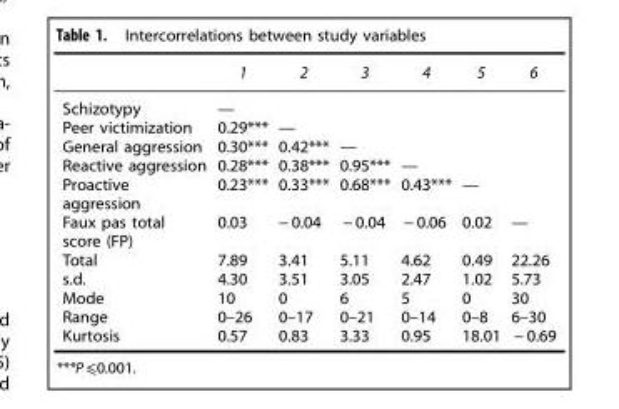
<table><thead><tr><td></td><td>1</td><td>2</td><td>3</td><td>4</td><td>5</td><td>6</td></tr></thead><tbody><tr><td>Schizotypy</td><td>—</td><td></td><td></td><td></td><td></td><td></td></tr><tr><td>Peer victimization</td><td>0.29***</td><td>—</td><td></td><td></td><td></td><td></td></tr><tr><td>General aggression</td><td>0.30***</td><td>0.42***</td><td>—</td><td></td><td></td><td></td></tr><tr><td>Reactive aggression</td><td>0.28***</td><td>0.38***</td><td>0.95***</td><td>—</td><td></td><td></td></tr><tr><td>Proactive aggression</td><td>0.23***</td><td>0.33***</td><td>0.68***</td><td>0.43***</td><td>—</td><td></td></tr><tr><td>Faux pas total score (FP)</td><td>0.03</td><td>− 0.04</td><td>− 0.04</td><td>− 0.06</td><td>0.02</td><td>—</td></tr><tr><td>Total</td><td>7.89</td><td>3.41</td><td>5.11</td><td>4.62</td><td>0.49</td><td>22.26</td></tr><tr><td>s.d.</td><td>4.30</td><td>3.51</td><td>3.05</td><td>2.47</td><td>1.02</td><td>5.73</td></tr><tr><td>Mode</td><td>10</td><td>0</td><td>6</td><td>5</td><td>0</td><td>30</td></tr><tr><td>Range</td><td>0–26</td><td>0–17</td><td>0–21</td><td>0–14</td><td>0–8</td><td>6–30</td></tr><tr><td>Kurtosis</td><td>0.57</td><td>0.83</td><td>3.33</td><td>0.95</td><td>18.01</td><td>− 0.69</td></tr></tbody></table>